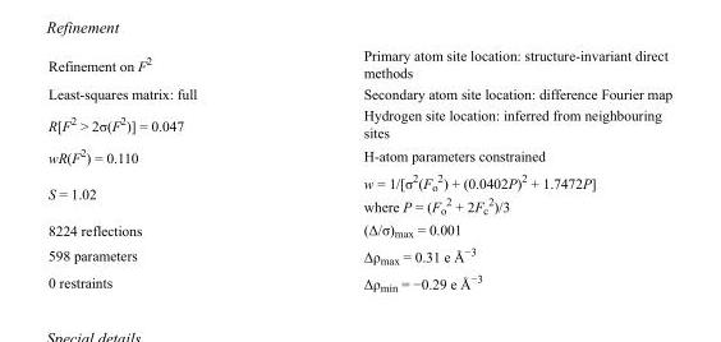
<table><tbody><tr><td>Refinement on F<sup>2</sup></td><td>Primary atom site location: structure-invariant direct methods</td></tr><tr><td>Least-squares matrix: full</td><td>Secondary atom site location: difference Fourier map</td></tr><tr><td>R[F<sup>2</sup> &gt; 2σ(F<sup>2</sup>)] = 0.047</td><td>Hydrogen site location: inferred from neighbouring sites</td></tr><tr><td>wR(F<sup>2</sup>) = 0.110</td><td>H-atom parameters constrained</td></tr><tr><td>S = 1.02</td><td>w = 1/[σ<sup>2</sup>(F<sub>o</sub> <sup>2</sup>) + (0.0402P)<sup>2</sup> + 1.7472P] where P = (F<sub>o</sub> <sup>2</sup> + 2F<sub>c</sub> <sup>2</sup>)/3</td></tr><tr><td>8224 reflections</td><td>(Δ/σ)<sub>max</sub> = 0.001</td></tr><tr><td>598 parameters</td><td>Δρ<sub>max</sub> = 0.31 e Å<sup>−3</sup></td></tr><tr><td>0 restraints</td><td>Δρ<sub>min</sub> = −0.29 e Å<sup>−3</sup></td></tr></tbody></table>